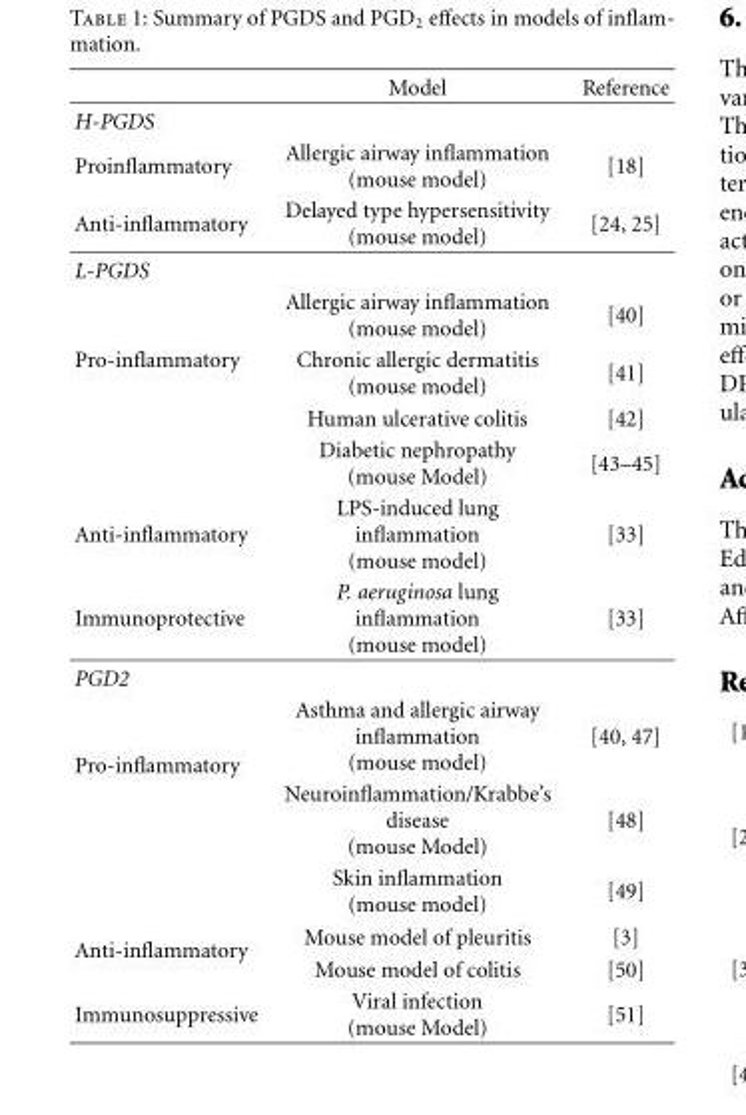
<table><thead><tr><td></td><td>Model</td><td>Reference</td></tr></thead><tbody><tr><td colspan="3">H-PGDS</td></tr><tr><td>Proinflammatory</td><td>Allergic airway inflammation (mouse model)</td><td>[18]</td></tr><tr><td>Anti-inflammatory</td><td>Delayed type hypersensitivity (mouse model)</td><td>[24, 25]</td></tr><tr><td colspan="3">L-PGDS</td></tr><tr><td rowspan="4">Pro-inflammatory</td><td>Allergic airway inflammation (mouse model)</td><td>[40]</td></tr><tr><td>Chronic allergic dermatitis (mouse model)</td><td>[41]</td></tr><tr><td>Human ulcerative colitis</td><td>[42]</td></tr><tr><td>Diabetic nephropathy (mouse Model)</td><td>[43–45]</td></tr><tr><td>Anti-inflammatory</td><td>LPS-induced lung inflammation (mouse model)</td><td>[33]</td></tr><tr><td>Immunoprotective</td><td>P. aeruginosa lung inflammation (mouse model)</td><td>[33]</td></tr><tr><td colspan="3">PGD2</td></tr><tr><td rowspan="3">Pro-inflammatory</td><td>Asthma and allergic airway inflammation (mouse model)</td><td>[40, 47]</td></tr><tr><td>Neuroinflammation/Krabbe’s disease (mouse Model)</td><td>[48]</td></tr><tr><td>Skin inflammation (mouse model)</td><td>[49]</td></tr><tr><td rowspan="2">Anti-inflammatory</td><td>Mouse model of pleuritis</td><td>[3]</td></tr><tr><td>Mouse model of colitis</td><td>[50]</td></tr><tr><td>Immunosuppressive</td><td>Viral infection (mouse Model)</td><td>[51]</td></tr></tbody></table>